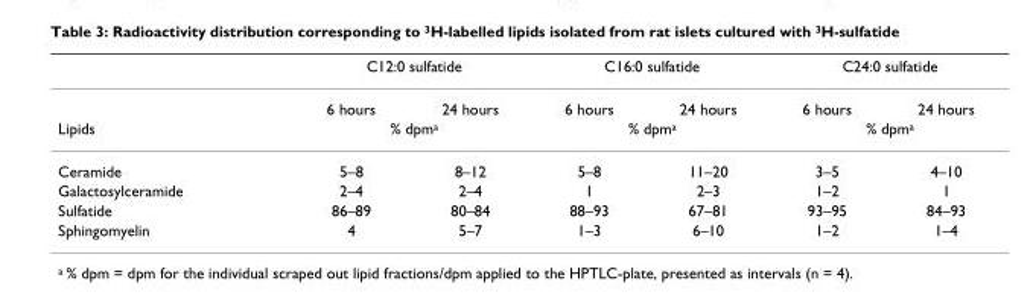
<table><thead><tr><td rowspan="2"></td><td colspan="2">C12:0 sulfatide</td><td colspan="2">C16:0 sulfatide</td><td colspan="2">C24:0 sulfatide</td></tr><tr><td>6 hours</td><td>24 hours</td><td>6 hours</td><td>24 hours</td><td>6 hours</td><td>24 hours</td></tr></thead><tbody><tr><td>Lipids</td><td colspan="2">% dpm<sup>a</sup></td><td colspan="2">% dpm<sup>a</sup></td><td colspan="2">% dpm<sup>a</sup></td></tr><tr><td>Ceramide</td><td>5–8</td><td>8–12</td><td>5–8</td><td>11–20</td><td>3–5</td><td>4–10</td></tr><tr><td>Galactosylceramide</td><td>2–4</td><td>2–4</td><td>1</td><td>2–3</td><td>1–2</td><td>1</td></tr><tr><td>Sulfatide</td><td>86–89</td><td>80–84</td><td>88–93</td><td>67–81</td><td>93–95</td><td>84–93</td></tr><tr><td>Sphingomyelin</td><td>4</td><td>5–7</td><td>1–3</td><td>6–10</td><td>1–2</td><td>1–4</td></tr></tbody></table>